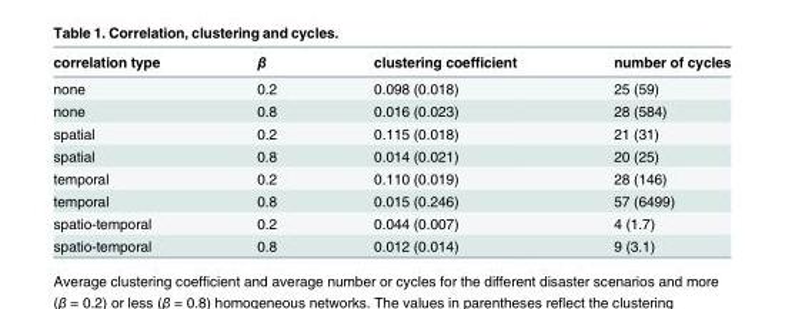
<table><thead><tr><td>correlation type</td><td>β</td><td>clustering coefficient</td><td>number of cycles</td></tr></thead><tbody><tr><td>none</td><td>0.2</td><td>0.098 (0.018)</td><td>25 (59)</td></tr><tr><td>none</td><td>0.8</td><td>0.016 (0.023)</td><td>28 (584)</td></tr><tr><td>spatial</td><td>0.2</td><td>0.115 (0.018)</td><td>21 (31)</td></tr><tr><td>spatial</td><td>0.8</td><td>0.014 (0.021)</td><td>20 (25)</td></tr><tr><td>temporal</td><td>0.2</td><td>0.110 (0.019)</td><td>28 (146)</td></tr><tr><td>temporal</td><td>0.8</td><td>0.015 (0.246)</td><td>57 (6499)</td></tr><tr><td>spatio-temporal</td><td>0.2</td><td>0.044 (0.007)</td><td>4 (1.7)</td></tr><tr><td>spatio-temporal</td><td>0.8</td><td>0.012 (0.014)</td><td>9 (3.1)</td></tr></tbody></table>